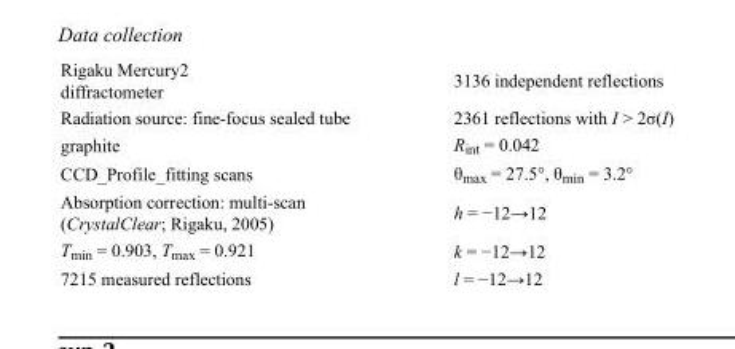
<table><tbody><tr><td>Rigaku Mercury2 diffractometer</td><td>3136 independent reflections</td></tr><tr><td>Radiation source: fine-focus sealed tube</td><td>2361 reflections with I &gt; 2σ(I)</td></tr><tr><td>graphite</td><td>R<sub>int</sub> = 0.042</td></tr><tr><td>CCD_Profile_fitting scans</td><td>θ<sub>max</sub> = 27.5°, θ<sub>min</sub> = 3.2°</td></tr><tr><td>Absorption correction: multi-scan (CrystalClear; Rigaku, 2005)</td><td>h = −12→12</td></tr><tr><td>T<sub>min</sub> = 0.903, T<sub>max</sub> = 0.921</td><td>k = −12→12</td></tr><tr><td>7215 measured reflections</td><td>l = −12→12</td></tr></tbody></table>